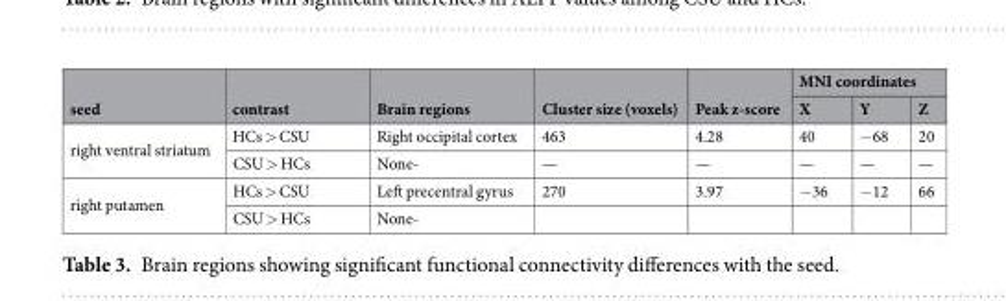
<table><thead><tr><td rowspan="2">seed</td><td rowspan="2">contrast</td><td rowspan="2">Brain regions</td><td rowspan="2">Cluster size (voxels)</td><td rowspan="2">Peak z-score</td><td colspan="3">MNI coordinates</td></tr><tr><td>X</td><td>Y</td><td>Z</td></tr></thead><tbody><tr><td rowspan="2">right ventral striatum</td><td>HCs &gt; CSU</td><td>Right occipital cortex</td><td>463</td><td>4.28</td><td>40</td><td>−68</td><td>20</td></tr><tr><td>CSU &gt; HCs</td><td>None-</td><td>—</td><td>—</td><td>—</td><td>—</td><td>—</td></tr><tr><td rowspan="2">right putamen</td><td>HCs &gt; CSU</td><td>Left precentral gyrus</td><td>270</td><td>3.97</td><td>−36</td><td>−12</td><td>66</td></tr><tr><td>CSU &gt; HCs</td><td>None-</td><td></td><td></td><td></td><td></td><td></td></tr></tbody></table>